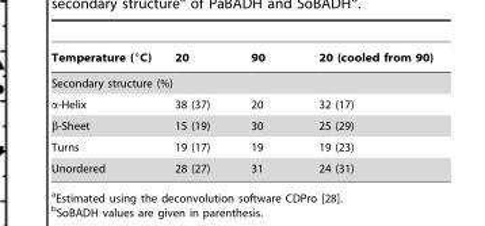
<table><thead><tr><td>Temperature (°C)</td><td>20</td><td>90</td><td>20 (cooled from 90)</td></tr></thead><tbody><tr><td colspan="4">Secondary structure (%)</td></tr><tr><td>α-Helix</td><td>38 (37)</td><td>20</td><td>32 (17)</td></tr><tr><td>β-Sheet</td><td>15 (19)</td><td>30</td><td>25 (29)</td></tr><tr><td>Turns</td><td>19 (17)</td><td>19</td><td>19 (23)</td></tr><tr><td>Unordered</td><td>28 (27)</td><td>31</td><td>24 (31)</td></tr></tbody></table>